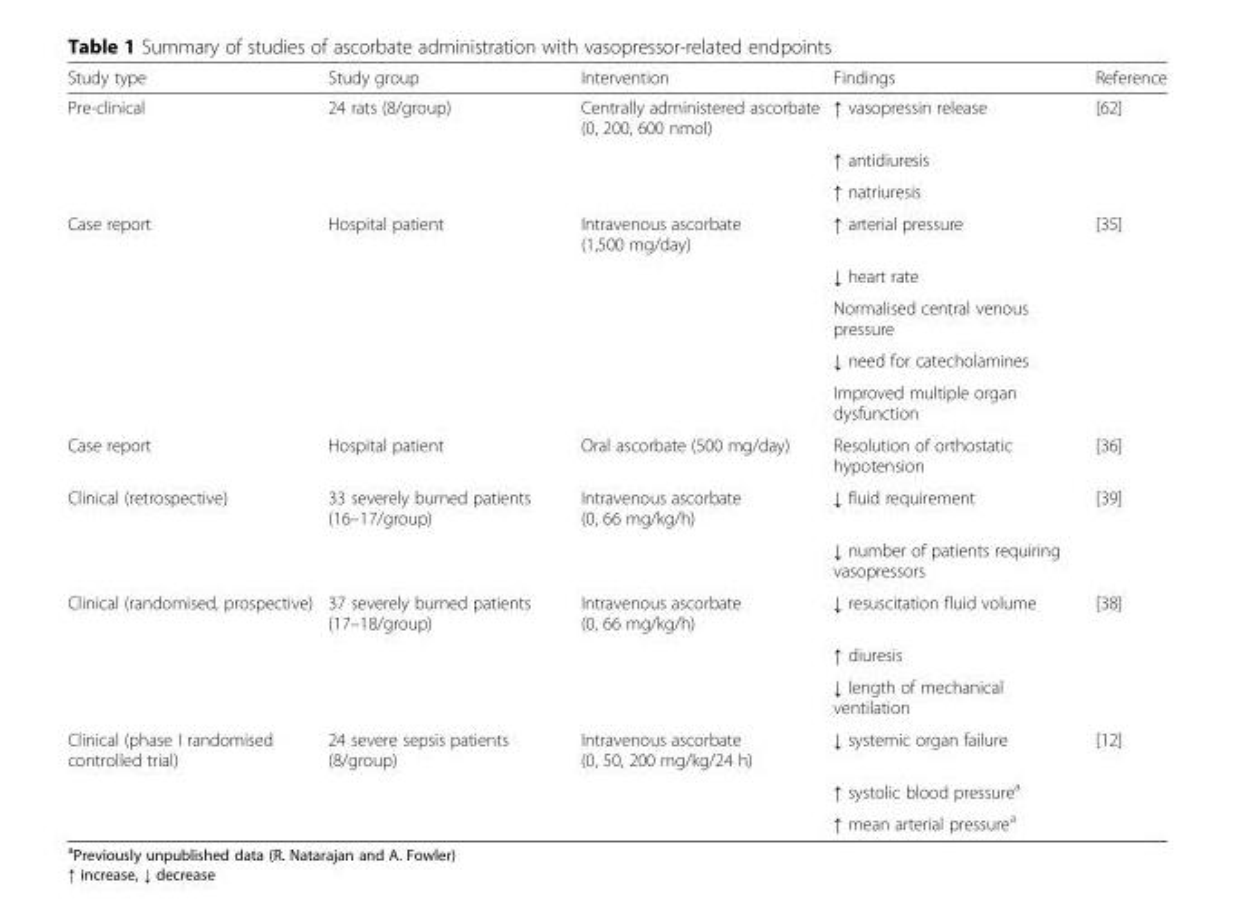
<table><thead><tr><td>Study type</td><td>Study group</td><td>Intervention</td><td>Findings</td><td>Reference</td></tr></thead><tbody><tr><td rowspan="3">Pre-clinical</td><td>24 rats (8/group)</td><td>Centrally administered ascorbate (0, 200, 600 nmol)</td><td>↑ vasopressin release</td><td>[62]</td></tr><tr><td></td><td></td><td>↑ antidiuresis</td><td></td></tr><tr><td></td><td></td><td>↑ natriuresis</td><td></td></tr><tr><td rowspan="5">Case report</td><td>Hospital patient</td><td>Intravenous ascorbate (1,500 mg/day)</td><td>↑ arterial pressure</td><td>[35]</td></tr><tr><td></td><td></td><td>↓ heart rate</td><td></td></tr><tr><td></td><td></td><td>Normalised central venous pressure</td><td></td></tr><tr><td></td><td></td><td>↓ need for catecholamines</td><td></td></tr><tr><td></td><td></td><td>Improved multiple organ dysfunction</td><td></td></tr><tr><td>Case report</td><td>Hospital patient</td><td>Oral ascorbate (500 mg/day)</td><td>Resolution of orthostatic hypotension</td><td>[36]</td></tr><tr><td rowspan="2">Clinical (retrospective)</td><td>33 severely burned patients (16–17/group)</td><td>Intravenous ascorbate (0, 66 mg/kg/h)</td><td>↓ fluid requirement</td><td>[39]</td></tr><tr><td></td><td></td><td>↓ number of patients requiring vasopressors</td><td></td></tr><tr><td rowspan="3">Clinical (randomised, prospective)</td><td>37 severely burned patients (17–18/group)</td><td>Intravenous ascorbate (0, 66 mg/kg/h)</td><td>↓ resuscitation fluid volume</td><td>[38]</td></tr><tr><td></td><td></td><td>↑ diuresis</td><td></td></tr><tr><td></td><td></td><td>↓ length of mechanical ventilation</td><td></td></tr><tr><td rowspan="3">Clinical (phase I randomised controlled trial)</td><td>24 severe sepsis patients (8/group)</td><td>Intravenous ascorbate (0, 50, 200 mg/kg/24 h)</td><td>↓ systemic organ failure</td><td>[12]</td></tr><tr><td></td><td></td><td>↑ systolic blood pressure<sup>a</sup></td><td></td></tr><tr><td></td><td></td><td>↑ mean arterial pressure<sup>a</sup></td><td></td></tr></tbody></table>